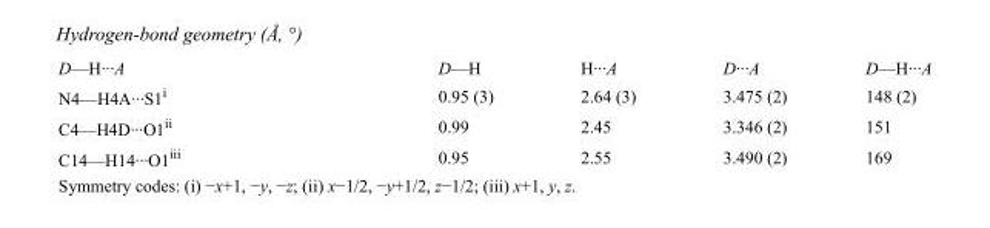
<table><tbody><tr><td>D—H···A</td><td>D—H</td><td>H···A</td><td>D···A</td><td>D—H···A</td></tr><tr><td>N4—H4A···S1<sup>i</sup></td><td>0.95 (3)</td><td>2.64 (3)</td><td>3.475 (2)</td><td>148 (2)</td></tr><tr><td>C4—H4D···O1<sup>ii</sup></td><td>0.99</td><td>2.45</td><td>3.346 (2)</td><td>151</td></tr><tr><td>C14—H14···O1<sup>iii</sup></td><td>0.95</td><td>2.55</td><td>3.490 (2)</td><td>169</td></tr></tbody></table>